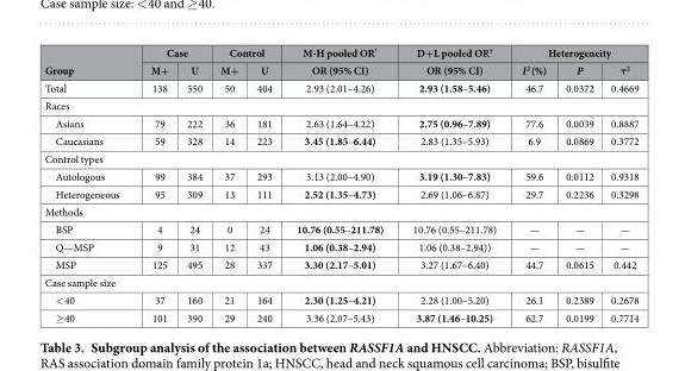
<table><thead><tr><td rowspan="2">Group</td><td colspan="2">Case</td><td colspan="2">Control</td><td rowspan="2">M-H pooled OR* OR (95% CI)</td><td rowspan="2">D+L pooled OR<sup>†</sup> OR (95% CI)</td><td colspan="3">Heterogeneity</td></tr><tr><td>M+</td><td>U</td><td>M+</td><td>U</td><td>I<sup>2</sup> (%)</td><td>P</td><td>τ<sup>2</sup></td></tr></thead><tbody><tr><td>Total</td><td>138</td><td>550</td><td>50</td><td>404</td><td>2.93 (2.01–4.26)</td><td>2.93 (1.58–5.46)</td><td>46.7</td><td>0.0372</td><td>0.4669</td></tr><tr><td colspan="10">Races</td></tr><tr><td>Asians</td><td>79</td><td>222</td><td>36</td><td>181</td><td>2.63 (1.64–4.22)</td><td>2.75 (0.96–7.89)</td><td>77.6</td><td>0.0039</td><td>0.8887</td></tr><tr><td>Caucasians</td><td>59</td><td>328</td><td>14</td><td>223</td><td>3.45 (1.85–6.44)</td><td>2.83 (1.35–5.93)</td><td>6.9</td><td>0.0869</td><td>0.3772</td></tr><tr><td colspan="10">Control types</td></tr><tr><td>Autologous</td><td>99</td><td>384</td><td>37</td><td>293</td><td>3.13 (2.00–4.90)</td><td>3.19 (1.30–7.83)</td><td>59.6</td><td>0.0112</td><td>0.9318</td></tr><tr><td>Heterogeneous</td><td>95</td><td>309</td><td>13</td><td>111</td><td>2.52 (1.35–4.73)</td><td>2.69 (1.06–6.87)</td><td>29.7</td><td>0.2236</td><td>0.3298</td></tr><tr><td colspan="10">Methods</td></tr><tr><td>BSP</td><td>4</td><td>24</td><td>0</td><td>24</td><td>10.76 (0.55–211.78)</td><td>10.76 (0.55–211.78)</td><td>—</td><td>—</td><td>—</td></tr><tr><td>Q—MSP</td><td>9</td><td>31</td><td>12</td><td>43</td><td>1.06 (0.38–2.94)</td><td>1.06 (0.38–2.94))</td><td>—</td><td>—</td><td>—</td></tr><tr><td>MSP</td><td>125</td><td>495</td><td>28</td><td>337</td><td>3.30 (2.17–5.01)</td><td>3.27 (1.67–6.40)</td><td>44.7</td><td>0.0615</td><td>0.442</td></tr><tr><td colspan="10">Case sample size</td></tr><tr><td>&lt; 40</td><td>37</td><td>160</td><td>21</td><td>164</td><td>2.30 (1.25–4.21)</td><td>2.28 (1.00–5.20)</td><td>26.1</td><td>0.2389</td><td>0.2678</td></tr><tr><td>≥ 40</td><td>101</td><td>390</td><td>29</td><td>240</td><td>3.36 (2.07–5.43)</td><td>3.87 (1.46–10.25)</td><td>62.7</td><td>0.0199</td><td>0.7714</td></tr></tbody></table>